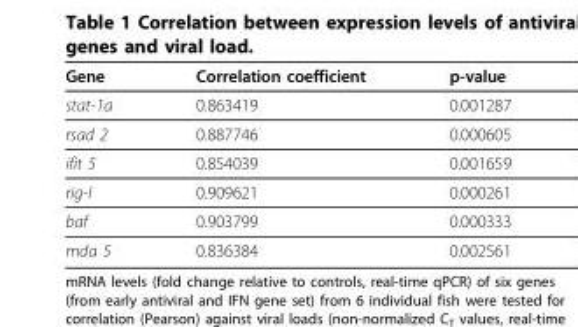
<table><thead><tr><td>Gene</td><td>Correlation coefficient</td><td>p-value</td></tr></thead><tbody><tr><td>stat-1a</td><td>0.863419</td><td>0.001287</td></tr><tr><td>rsad 2</td><td>0.887746</td><td>0.000605</td></tr><tr><td>ifit 5</td><td>0.854039</td><td>0.001659</td></tr><tr><td>rig-I</td><td>0.909621</td><td>0.000261</td></tr><tr><td>baf</td><td>0.903799</td><td>0.000333</td></tr><tr><td>mda 5</td><td>0.836384</td><td>0.002561</td></tr></tbody></table>